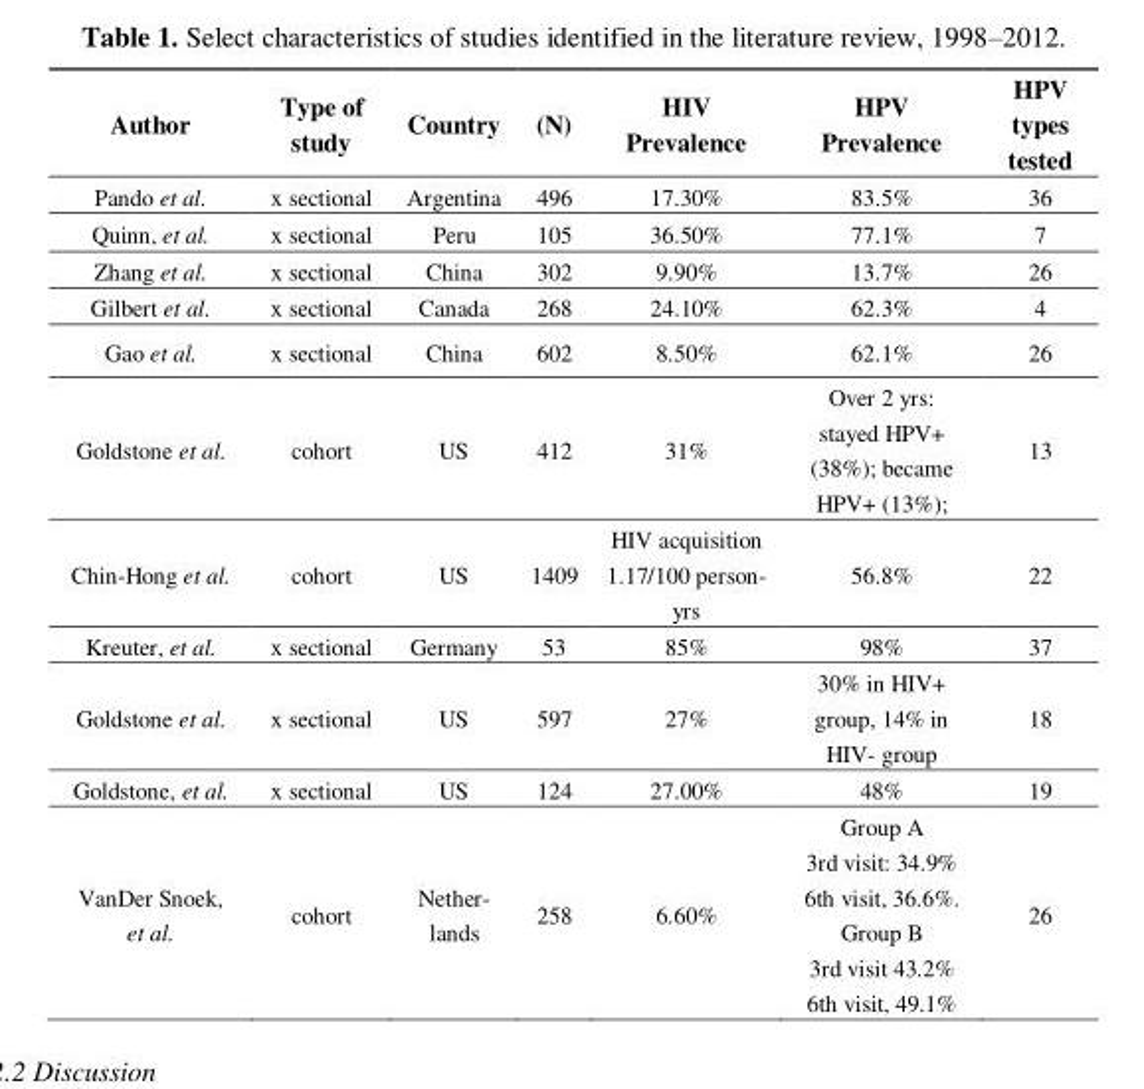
<table><thead><tr><td>Author</td><td>Type of study</td><td>Country</td><td>(N)</td><td>HIV Prevalence</td><td>HPV Prevalence</td><td>HPV types tested</td></tr></thead><tbody><tr><td>Pando et al.</td><td>x sectional</td><td>Argentina</td><td>496</td><td>17.30%</td><td>83.5%</td><td>36</td></tr><tr><td>Quinn, et al.</td><td>x sectional</td><td>Peru</td><td>105</td><td>36.50%</td><td>77.1%</td><td>7</td></tr><tr><td>Zhang et al.</td><td>x sectional</td><td>China</td><td>302</td><td>9.90%</td><td>13.7%</td><td>26</td></tr><tr><td>Gilbert et al.</td><td>x sectional</td><td>Canada</td><td>268</td><td>24.10%</td><td>62.3%</td><td>4</td></tr><tr><td>Gao et al.</td><td>x sectional</td><td>China</td><td>602</td><td>8.50%</td><td>62.1%</td><td>26</td></tr><tr><td>Goldstone et al.</td><td>cohort</td><td>US</td><td>412</td><td>31%</td><td>Over 2 yrs: stayed HPV+ (38%); became HPV+ (13%);</td><td>13</td></tr><tr><td>Chin-Hong et al.</td><td>cohort</td><td>US</td><td>1409</td><td>HIV acquisition 1.17/100 person- yrs</td><td>56.8%</td><td>22</td></tr><tr><td>Kreuter, et al.</td><td>x sectional</td><td>Germany</td><td>53</td><td>85%</td><td>98%</td><td>37</td></tr><tr><td>Goldstone et al.</td><td>x sectional</td><td>US</td><td>597</td><td>27%</td><td>30% in HIV+ group, 14% in HIV- group</td><td>18</td></tr><tr><td>Goldstone, et al.</td><td>x sectional</td><td>US</td><td>124</td><td>27.00%</td><td>48%</td><td>19</td></tr><tr><td>VanDer Snoek, et al.</td><td>cohort</td><td>Nether- lands</td><td>258</td><td>6.60%</td><td>Group A 3rd visit: 34.9% 6th visit, 36.6%. Group B 3rd visit 43.2% 6th visit, 49.1%</td><td>26</td></tr></tbody></table>